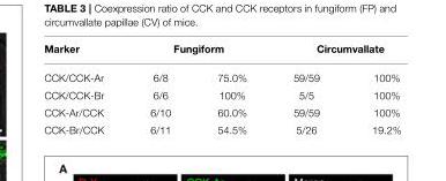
<table><thead><tr><td rowspan="2">Marker CCK/CCK-Ar</td><td colspan="2">Fungiform</td><td colspan="2">Circumvallate</td></tr><tr><td>6/8</td><td>75.0%</td><td>59/59</td><td>100%</td></tr></thead><tbody><tr><td>CCK/CCK-Br</td><td>6/6</td><td>100%</td><td>5/5</td><td>100%</td></tr><tr><td>CCK-Ar/CCK</td><td>6/10</td><td>60.0%</td><td>59/59</td><td>100%</td></tr><tr><td>CCK-Br/CCK</td><td>6/11</td><td>54.5%</td><td>5/26</td><td>19.2%</td></tr></tbody></table>